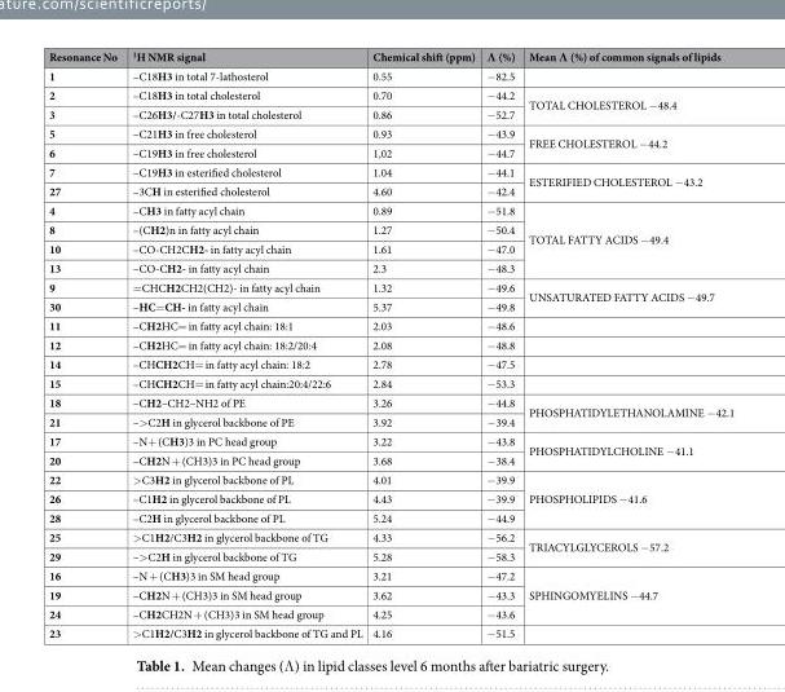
<table><thead><tr><td>Resonance No</td><td><sup>1</sup>H NMR signal</td><td>Chemical shift (ppm)</td><td>Λ (%)</td><td>Mean Λ (%) of common signals of lipids</td></tr></thead><tbody><tr><td>1</td><td>–C18H3 in total 7-lathosterol</td><td>0.55</td><td>−82.5</td><td></td></tr><tr><td>2</td><td>–C18H3 in total cholesterol</td><td>0.70</td><td>−44.2</td><td rowspan="2">TOTAL CHOLESTEROL −48.4</td></tr><tr><td>3</td><td>–C26H3/-C27H3 in total cholesterol</td><td>0.86</td><td>−52.7</td></tr><tr><td>5</td><td>–C21H3 in free cholesterol</td><td>0.93</td><td>−43.9</td><td rowspan="2">FREE CHOLESTEROL −44.2</td></tr><tr><td>6</td><td>–C19H3 in free cholesterol</td><td>1,02</td><td>−44.7</td></tr><tr><td>7</td><td>–C19H3 in esterified cholesterol</td><td>1.04</td><td>−44.1</td><td rowspan="2">ESTERIFIED CHOLESTEROL −43.2</td></tr><tr><td>27</td><td>–3CH in esterified cholesterol</td><td>4.60</td><td>−42.4</td></tr><tr><td>4</td><td>–CH3 in fatty acyl chain</td><td>0.89</td><td>−51.8</td><td rowspan="4">TOTAL FATTY ACIDS −49.4</td></tr><tr><td>8</td><td>–(CH2)n in fatty acyl chain</td><td>1.27</td><td>−50.4</td></tr><tr><td>10</td><td>–CO-CH2CH2- in fatty acyl chain</td><td>1.61</td><td>−47.0</td></tr><tr><td>13</td><td>–CO-CH2- in fatty acyl chain</td><td>2.3</td><td>−48.3</td></tr><tr><td>9</td><td>=CHCH2CH2(CH2)- in fatty acyl chain</td><td>1.32</td><td>−49.6</td><td rowspan="2">UNSATURATED FATTY ACIDS −49.7</td></tr><tr><td>30</td><td>–HC=CH- in fatty acyl chain</td><td>5.37</td><td>−49.8</td></tr><tr><td>11</td><td>–CH2HC= in fatty acyl chain: 18:1</td><td>2.03</td><td>−48.6</td><td></td></tr><tr><td>12</td><td>–CH2HC= in fatty acyl chain: 18:2/20:4</td><td>2.08</td><td>−48.8</td><td></td></tr><tr><td>14</td><td>–CHCH2CH= in fatty acyl chain: 18:2</td><td>2.78</td><td>−47.5</td><td></td></tr><tr><td>15</td><td>–CHCH2CH= in fatty acyl chain:20:4/22:6</td><td>2.84</td><td>−53.3</td><td></td></tr><tr><td>18</td><td>–CH2–CH2–NH2 of PE</td><td>3.26</td><td>−44.8</td><td rowspan="2">PHOSPHATIDYLETHANOLAMINE −42.1</td></tr><tr><td>21</td><td>–&gt;C2H in glycerol backbone of PE</td><td>3.92</td><td>−39.4</td></tr><tr><td>17</td><td>–N+ (CH3)3 in PC head group</td><td>3.22</td><td>−43.8</td><td rowspan="2">PHOSPHATIDYLCHOLINE −41.1</td></tr><tr><td>20</td><td>–CH2N + (CH3)3 in PC head group</td><td>3.68</td><td>−38.4</td></tr><tr><td>22</td><td>&gt;C3H2 in glycerol backbone of PL</td><td>4.01</td><td>−39.9</td><td rowspan="3">PHOSPHOLIPIDS −41.6</td></tr><tr><td>26</td><td>–C1H2 in glycerol backbone of PL</td><td>4.43</td><td>−39.9</td></tr><tr><td>28</td><td>–C2H in glycerol backbone of PL</td><td>5.24</td><td>−44.9</td></tr><tr><td>25</td><td>&gt;C1H2/C3H2 in glycerol backbone of TG</td><td>4.33</td><td>−56.2</td><td rowspan="2">TRIACYLGLYCEROLS −57.2</td></tr><tr><td>29</td><td>–&gt;C2H in glycerol backbone of TG</td><td>5.28</td><td>−58.3</td></tr><tr><td>16</td><td>–N + (CH3)3 in SM head group</td><td>3.21</td><td>−47.2</td><td rowspan="3">SPHINGOMYELINS −44.7</td></tr><tr><td>19</td><td>–CH2N + (CH3)3 in SM head group</td><td>3.62</td><td>−43.3</td></tr><tr><td>24</td><td>–CH2CH2N + (CH3)3 in SM head group</td><td>4.25</td><td>−43.6</td></tr><tr><td>23</td><td>&gt;C1H2/C3H2 in glycerol backbone of TG and PL</td><td>4.16</td><td>−51.5</td><td></td></tr></tbody></table>